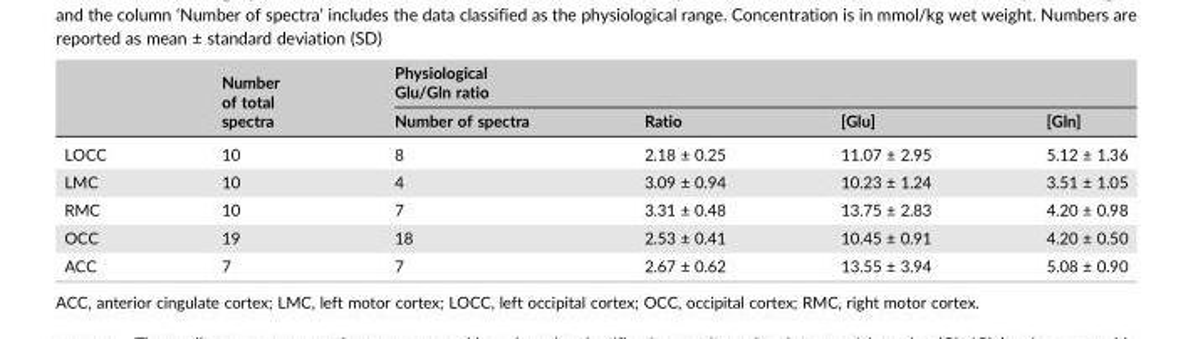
<table><thead><tr><td rowspan="2"></td><td rowspan="2">Number of total spectra</td><td colspan="4">Physiological Glu/Gln ratio</td></tr><tr><td>Number of spectra</td><td>Ratio</td><td>[Glu]</td><td>[Gln]</td></tr></thead><tbody><tr><td>LOCC</td><td>10</td><td>8</td><td>2.18 ± 0.25</td><td>11.07 ± 2.95</td><td>5.12 ± 1.36</td></tr><tr><td>LMC</td><td>10</td><td>4</td><td>3.09 ± 0.94</td><td>10.23 ± 1.24</td><td>3.51 ± 1.05</td></tr><tr><td>RMC</td><td>10</td><td>7</td><td>3.31 ± 0.48</td><td>13.75 ± 2.83</td><td>4.20 ± 0.98</td></tr><tr><td>OCC</td><td>19</td><td>18</td><td>2.53 ± 0.41</td><td>10.45 ± 0.91</td><td>4.20 ± 0.50</td></tr><tr><td>ACC</td><td>7</td><td>7</td><td>2.67 ± 0.62</td><td>13.55 ± 3.94</td><td>5.08 ± 0.90</td></tr></tbody></table>